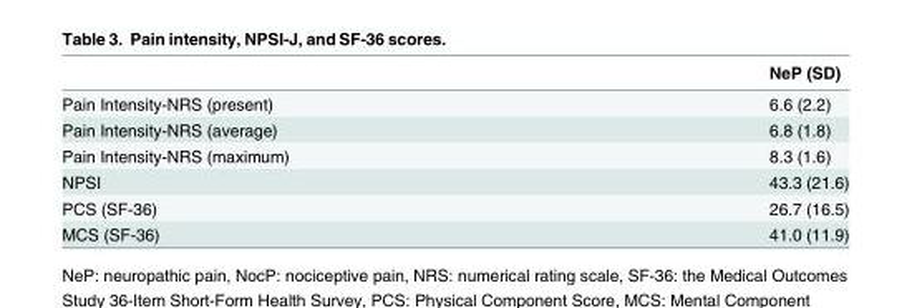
<table><thead><tr><td></td><td>NeP (SD)</td></tr></thead><tbody><tr><td>Pain Intensity-NRS (present)</td><td>6.6 (2.2)</td></tr><tr><td>Pain Intensity-NRS (average)</td><td>6.8 (1.8)</td></tr><tr><td>Pain Intensity-NRS (maximum)</td><td>8.3 (1.6)</td></tr><tr><td>NPSI</td><td>43.3 (21.6)</td></tr><tr><td>PCS (SF-36)</td><td>26.7 (16.5)</td></tr><tr><td>MCS (SF-36)</td><td>41.0 (11.9)</td></tr></tbody></table>